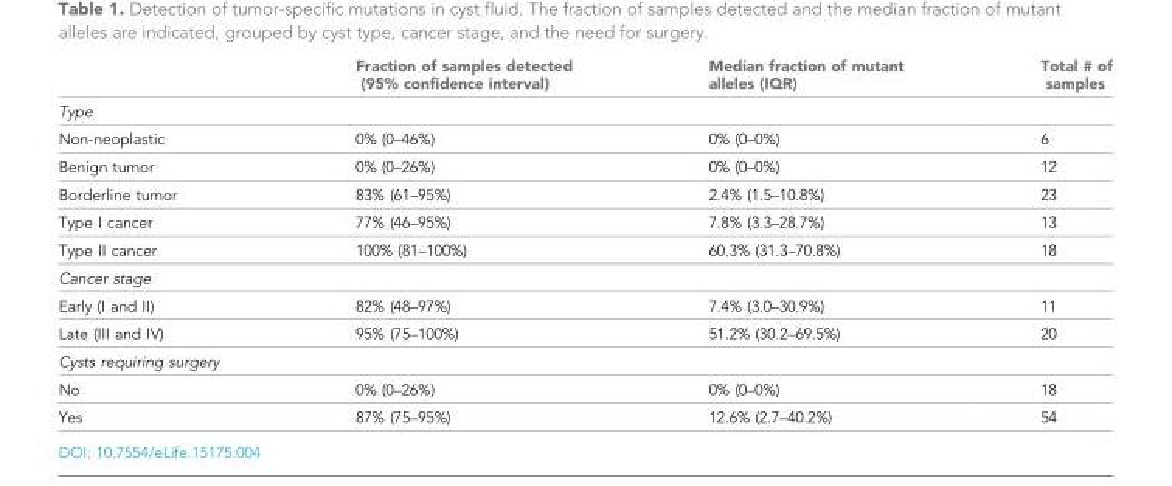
<table><thead><tr><td></td><td>Fraction of samples detected (95% confidence interval)</td><td>Median fraction of mutant alleles (IQR)</td><td>Total # of samples</td></tr></thead><tbody><tr><td colspan="4">Type</td></tr><tr><td>Non-neoplastic</td><td>0% (0–46%)</td><td>0% (0–0%)</td><td>6</td></tr><tr><td>Benign tumor</td><td>0% (0–26%)</td><td>0% (0–0%)</td><td>12</td></tr><tr><td>Borderline tumor</td><td>83% (61–95%)</td><td>2.4% (1.5–10.8%)</td><td>23</td></tr><tr><td>Type I cancer</td><td>77% (46–95%)</td><td>7.8% (3.3–28.7%)</td><td>13</td></tr><tr><td>Type II cancer</td><td>100% (81–100%)</td><td>60.3% (31.3–70.8%)</td><td>18</td></tr><tr><td colspan="4">Cancer stage</td></tr><tr><td>Early (I and II)</td><td>82% (48–97%)</td><td>7.4% (3.0–30.9%)</td><td>11</td></tr><tr><td>Late (III and IV)</td><td>95% (75–100%)</td><td>51.2% (30.2–69.5%)</td><td>20</td></tr><tr><td colspan="4">Cysts requiring surgery</td></tr><tr><td>No</td><td>0% (0–26%)</td><td>0% (0–0%)</td><td>18</td></tr><tr><td>Yes</td><td>87% (75–95%)</td><td>12.6% (2.7–40.2%)</td><td>54</td></tr></tbody></table>